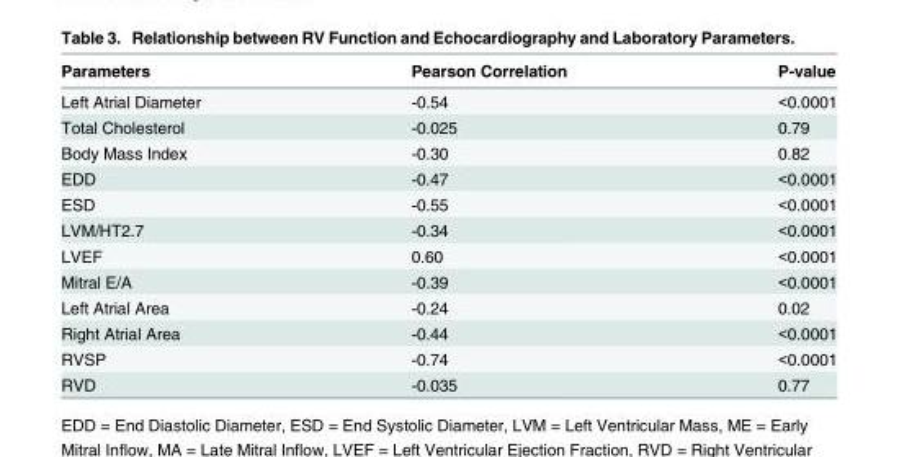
<table><thead><tr><td>Parameters</td><td>Pearson Correlation</td><td>P-value</td></tr></thead><tbody><tr><td>Left Atrial Diameter</td><td>-0.54</td><td>&lt;0.0001</td></tr><tr><td>Total Cholesterol</td><td>-0.025</td><td>0.79</td></tr><tr><td>Body Mass Index</td><td>-0.30</td><td>0.82</td></tr><tr><td>EDD</td><td>-0.47</td><td>&lt;0.0001</td></tr><tr><td>ESD</td><td>-0.55</td><td>&lt;0.0001</td></tr><tr><td>LVM/HT2.7</td><td>-0.34</td><td>&lt;0.0001</td></tr><tr><td>LVEF</td><td>0.60</td><td>&lt;0.0001</td></tr><tr><td>Mitral E/A</td><td>-0.39</td><td>&lt;0.0001</td></tr><tr><td>Left Atrial Area</td><td>-0.24</td><td>0.02</td></tr><tr><td>Right Atrial Area</td><td>-0.44</td><td>&lt;0.0001</td></tr><tr><td>RVSP</td><td>-0.74</td><td>&lt;0.0001</td></tr><tr><td>RVD</td><td>-0.035</td><td>0.77</td></tr></tbody></table>